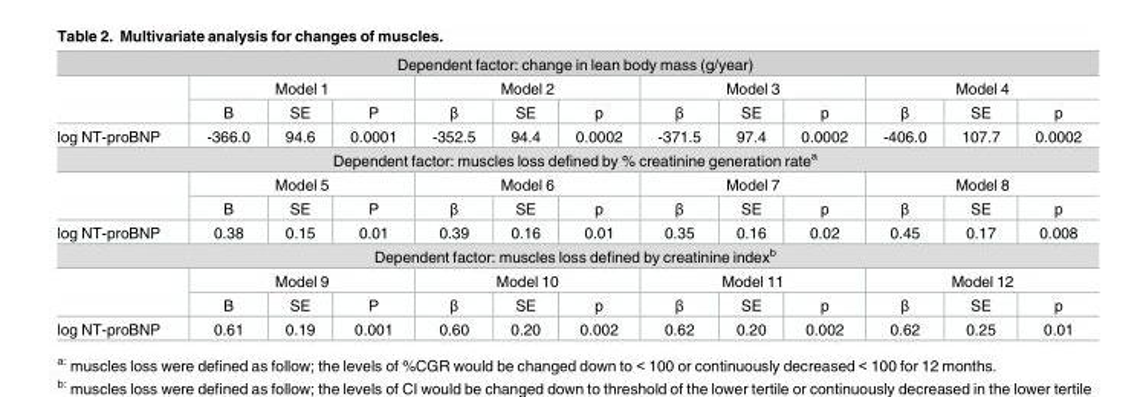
<table><tbody><tr><td colspan="13">Dependent factor: change in lean body mass (g/year)</td></tr><tr><td rowspan="2"></td><td colspan="3">Model 1</td><td colspan="3">Model 2</td><td colspan="3">Model 3</td><td colspan="3">Model 4</td></tr><tr><td>B</td><td>SE</td><td>P</td><td>β</td><td>SE</td><td>p</td><td>β</td><td>SE</td><td>p</td><td>β</td><td>SE</td><td>p</td></tr><tr><td>log NT-proBNP</td><td>-366.0</td><td>94.6</td><td>0.0001</td><td>-352.5</td><td>94.4</td><td>0.0002</td><td>-371.5</td><td>97.4</td><td>0.0002</td><td>-406.0</td><td>107.7</td><td>0.0002</td></tr><tr><td colspan="13">Dependent factor: muscles loss defined by % creatinine generation rate<sup>a</sup></td></tr><tr><td rowspan="2"></td><td colspan="3">Model 5</td><td colspan="3">Model 6</td><td colspan="3">Model 7</td><td colspan="3">Model 8</td></tr><tr><td>B</td><td>SE</td><td>P</td><td>β</td><td>SE</td><td>p</td><td>β</td><td>SE</td><td>p</td><td>β</td><td>SE</td><td>p</td></tr><tr><td>log NT-proBNP</td><td>0.38</td><td>0.15</td><td>0.01</td><td>0.39</td><td>0.16</td><td>0.01</td><td>0.35</td><td>0.16</td><td>0.02</td><td>0.45</td><td>0.17</td><td>0.008</td></tr><tr><td colspan="13">Dependent factor: muscles loss defined by creatinine index<sup>b</sup></td></tr><tr><td rowspan="2"></td><td colspan="3">Model 9</td><td colspan="3">Model 10</td><td colspan="3">Model 11</td><td colspan="3">Model 12</td></tr><tr><td>B</td><td>SE</td><td>P</td><td>β</td><td>SE</td><td>p</td><td>β</td><td>SE</td><td>p</td><td>β</td><td>SE</td><td>p</td></tr><tr><td>log NT-proBNP</td><td>0.61</td><td>0.19</td><td>0.001</td><td>0.60</td><td>0.20</td><td>0.002</td><td>0.62</td><td>0.20</td><td>0.002</td><td>0.62</td><td>0.25</td><td>0.01</td></tr></tbody></table>